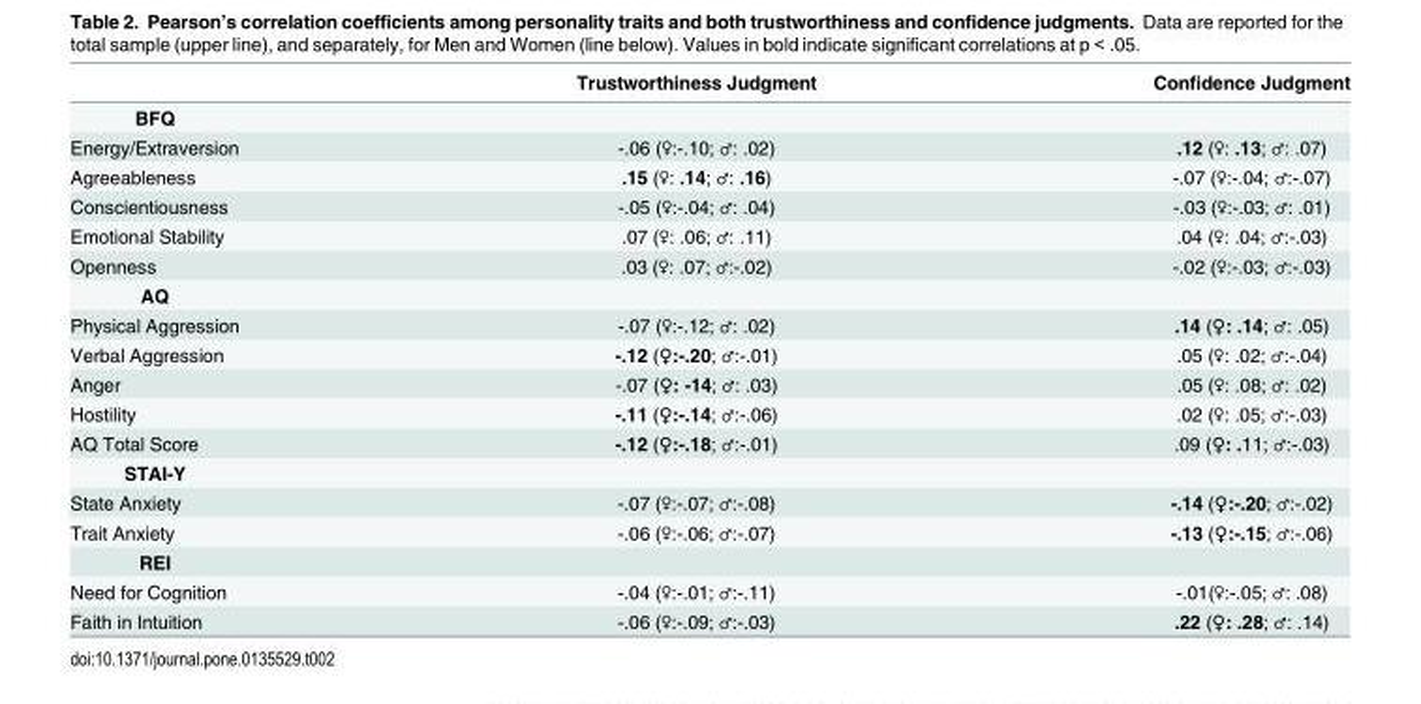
<table><thead><tr><td></td><td>Trustworthiness Judgment</td><td>Confidence Judgment</td></tr></thead><tbody><tr><td colspan="3">BFQ</td></tr><tr><td>Energy/Extraversion</td><td>-.06 (♀:-.10; ♂: .02)</td><td>.12 (♀: .13; ♂: .07)</td></tr><tr><td>Agreeableness</td><td>.15 (♀: .14; ♂: .16)</td><td>-.07 (♀:-.04; ♂:-.07)</td></tr><tr><td>Conscientiousness</td><td>-.05 (♀:-.04; ♂: .04)</td><td>-.03 (♀:-.03; ♂: .01)</td></tr><tr><td>Emotional Stability</td><td>.07 (♀: .06; ♂: .11)</td><td>.04 (♀: .04; ♂:-.03)</td></tr><tr><td>Openness</td><td>.03 (♀: .07; ♂:-.02)</td><td>-.02 (♀:-.03; ♂:-.03)</td></tr><tr><td colspan="3">AQ</td></tr><tr><td>Physical Aggression</td><td>-.07 (♀:-.12; ♂: .02)</td><td>.14 (♀: .14; ♂: .05)</td></tr><tr><td>Verbal Aggression</td><td>-.12 (♀:-.20; ♂:-.01)</td><td>.05 (♀: .02; ♂:-.04)</td></tr><tr><td>Anger</td><td>-.07 (♀: -14; ♂: .03)</td><td>.05 (♀: .08; ♂: .02)</td></tr><tr><td>Hostility</td><td>-.11 (♀:-.14; ♂:-.06)</td><td>.02 (♀: .05; ♂:-.03)</td></tr><tr><td>AQ Total Score</td><td>-.12 (♀:-.18; ♂:-.01)</td><td>.09 (♀: .11; ♂:-.03)</td></tr><tr><td colspan="3">STAI-Y</td></tr><tr><td>State Anxiety</td><td>-.07 (♀:-.07; ♂:-.08)</td><td>-.14 (♀:-.20; ♂:-.02)</td></tr><tr><td>Trait Anxiety</td><td>-.06 (♀:-.06; ♂:-.07)</td><td>-.13 (♀:-.15; ♂:-.06)</td></tr><tr><td colspan="3">REI</td></tr><tr><td>Need for Cognition</td><td>-.04 (♀:-.01; ♂:-.11)</td><td>-.01(♀:-.05; ♂: .08)</td></tr><tr><td>Faith in Intuition</td><td>-.06 (♀:-.09; ♂:-.03)</td><td>.22 (♀: .28; ♂: .14)</td></tr></tbody></table>